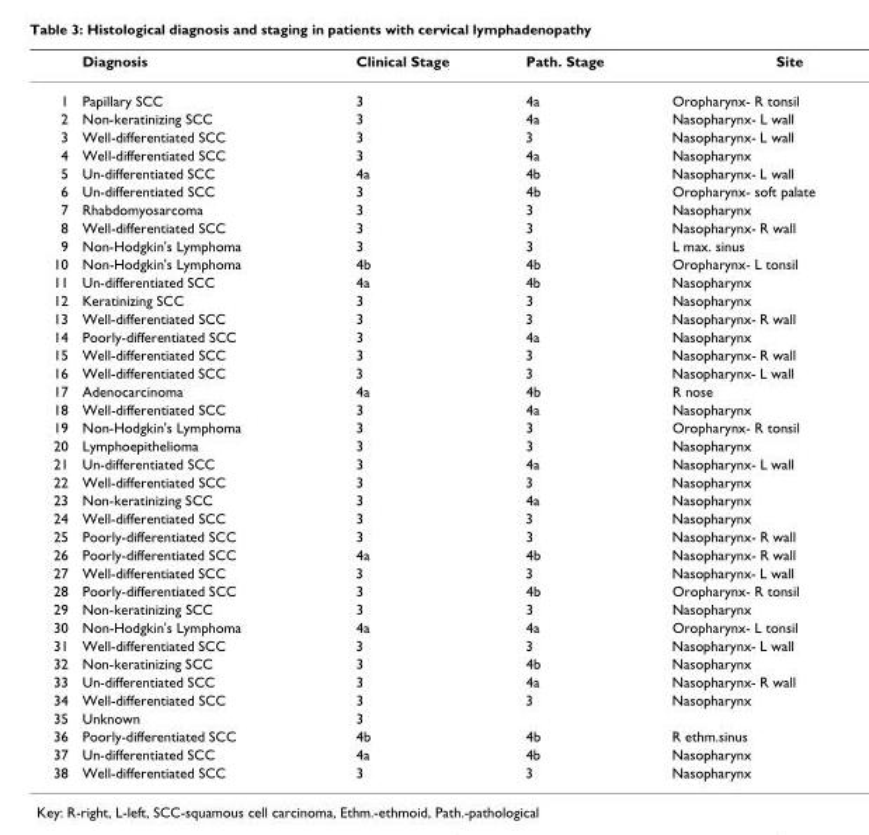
<table><thead><tr><td></td><td>Diagnosis</td><td>Clinical Stage</td><td>Path. Stage</td><td>Site</td></tr></thead><tbody><tr><td>1</td><td>Papillary SCC</td><td>3</td><td>4a</td><td>Oropharynx- R tonsil</td></tr><tr><td>2</td><td>Non-keratinizing SCC</td><td>3</td><td>4a</td><td>Nasopharynx- L wall</td></tr><tr><td>3</td><td>Well-differentiated SCC</td><td>3</td><td>3</td><td>Nasopharynx- L wall</td></tr><tr><td>4</td><td>Well-differentiated SCC</td><td>3</td><td>4a</td><td>Nasopharynx</td></tr><tr><td>5</td><td>Un-differentiated SCC</td><td>4a</td><td>4b</td><td>Nasopharynx- L wall</td></tr><tr><td>6</td><td>Un-differentiated SCC</td><td>3</td><td>4b</td><td>Oropharynx- soft palate</td></tr><tr><td>7</td><td>Rhabdomyosarcoma</td><td>3</td><td>3</td><td>Nasopharynx</td></tr><tr><td>8</td><td>Well-differentiated SCC</td><td>3</td><td>3</td><td>Nasopharynx- R wall</td></tr><tr><td>9</td><td>Non-Hodgkin&#x27;s Lymphoma</td><td>3</td><td>3</td><td>L max. sinus</td></tr><tr><td>10</td><td>Non-Hodgkin&#x27;s Lymphoma</td><td>4b</td><td>4b</td><td>Oropharynx- L tonsil</td></tr><tr><td>11</td><td>Un-differentiated SCC</td><td>4a</td><td>4b</td><td>Nasopharynx</td></tr><tr><td>12</td><td>Keratinizing SCC</td><td>3</td><td>3</td><td>Nasopharynx</td></tr><tr><td>13</td><td>Well-differentiated SCC</td><td>3</td><td>3</td><td>Nasopharynx- R wall</td></tr><tr><td>14</td><td>Poorly-differentiated SCC</td><td>3</td><td>4a</td><td>Nasopharynx</td></tr><tr><td>15</td><td>Well-differentiated SCC</td><td>3</td><td>3</td><td>Nasopharynx- R wall</td></tr><tr><td>16</td><td>Well-differentiated SCC</td><td>3</td><td>3</td><td>Nasopharynx- L wall</td></tr><tr><td>17</td><td>Adenocarcinoma</td><td>4a</td><td>4b</td><td>R nose</td></tr><tr><td>18</td><td>Well-differentiated SCC</td><td>3</td><td>4a</td><td>Nasopharynx</td></tr><tr><td>19</td><td>Non-Hodgkin&#x27;s Lymphoma</td><td>3</td><td>3</td><td>Oropharynx- R tonsil</td></tr><tr><td>20</td><td>Lymphoepithelioma</td><td>3</td><td>3</td><td>Nasopharynx</td></tr><tr><td>21</td><td>Un-differentiated SCC</td><td>3</td><td>4a</td><td>Nasopharynx- L wall</td></tr><tr><td>22</td><td>Well-differentiated SCC</td><td>3</td><td>3</td><td>Nasopharynx</td></tr><tr><td>23</td><td>Non-keratinizing SCC</td><td>3</td><td>4a</td><td>Nasopharynx</td></tr><tr><td>24</td><td>Well-differentiated SCC</td><td>3</td><td>3</td><td>Nasopharynx</td></tr><tr><td>25</td><td>Poorly-differentiated SCC</td><td>3</td><td>3</td><td>Nasopharynx- R wall</td></tr><tr><td>26</td><td>Poorly-differentiated SCC</td><td>4a</td><td>4b</td><td>Nasopharynx- R wall</td></tr><tr><td>27</td><td>Well-differentiated SCC</td><td>3</td><td>3</td><td>Nasopharynx- L wall</td></tr><tr><td>28</td><td>Poorly-differentiated SCC</td><td>3</td><td>4b</td><td>Oropharynx- R tonsil</td></tr><tr><td>29</td><td>Non-keratinizing SCC</td><td>3</td><td>3</td><td>Nasopharynx</td></tr><tr><td>30</td><td>Non-Hodgkin&#x27;s Lymphoma</td><td>4a</td><td>4a</td><td>Oropharynx- L tonsil</td></tr><tr><td>31</td><td>Well-differentiated SCC</td><td>3</td><td>3</td><td>Nasopharynx- L wall</td></tr><tr><td>32</td><td>Non-keratinizing SCC</td><td>3</td><td>4b</td><td>Nasopharynx</td></tr><tr><td>33</td><td>Un-differentiated SCC</td><td>3</td><td>4a</td><td>Nasopharynx- R wall</td></tr><tr><td>34</td><td>Well-differentiated SCC</td><td>3</td><td>3</td><td>Nasopharynx</td></tr><tr><td>35</td><td>Unknown</td><td>3</td><td></td><td></td></tr><tr><td>36</td><td>Poorly-differentiated SCC</td><td>4b</td><td>4b</td><td>R ethm.sinus</td></tr><tr><td>37</td><td>Un-differentiated SCC</td><td>4a</td><td>4b</td><td>Nasopharynx</td></tr><tr><td>38</td><td>Well-differentiated SCC</td><td>3</td><td>3</td><td>Nasopharynx</td></tr></tbody></table>